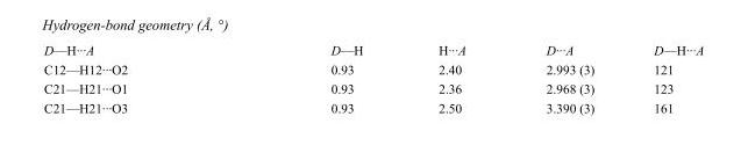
<table><tbody><tr><td>D—H···A</td><td>D—H</td><td>H···A</td><td>D···A</td><td>D—H···A</td></tr><tr><td>C12—H12···O2</td><td>0.93</td><td>2.40</td><td>2.993 (3)</td><td>121</td></tr><tr><td>C21—H21···O1</td><td>0.93</td><td>2.36</td><td>2.968 (3)</td><td>123</td></tr><tr><td>C21—H21···O3</td><td>0.93</td><td>2.50</td><td>3.390 (3)</td><td>161</td></tr></tbody></table>